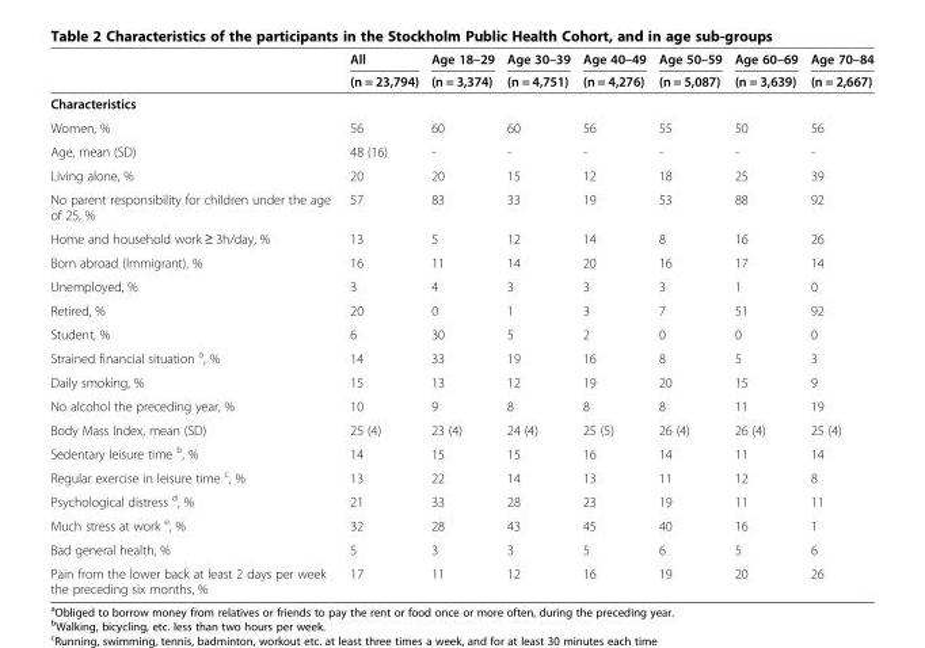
<table><thead><tr><td rowspan="2"></td><td rowspan="2">All (n = 23,794)</td><td rowspan="2">Age 18–29 (n = 3,374)</td><td rowspan="2">Age 30–39 (n = 4,751)</td><td rowspan="2">Age 40–49 (n = 4,276)</td><td rowspan="2">Age 50–59 (n = 5,087)</td><td rowspan="2">Age 60–69 (n = 3,639)</td><td rowspan="2">Age 70–84 (n = 2,667)</td></tr><tr></tr></thead><tbody><tr><td colspan="8">Characteristics</td></tr><tr><td>Women, %</td><td>56</td><td>60</td><td>60</td><td>56</td><td>55</td><td>50</td><td>56</td></tr><tr><td>Age, mean (SD)</td><td>48 (16)</td><td>-</td><td>-</td><td>-</td><td>-</td><td>-</td><td>-</td></tr><tr><td>Living alone, %</td><td>20</td><td>20</td><td>15</td><td>12</td><td>18</td><td>25</td><td>39</td></tr><tr><td>No parent responsibility for children under the age of 25, %</td><td>57</td><td>83</td><td>33</td><td>19</td><td>53</td><td>88</td><td>92</td></tr><tr><td>Home and household work ≥ 3h/day, %</td><td>13</td><td>5</td><td>12</td><td>14</td><td>8</td><td>16</td><td>26</td></tr><tr><td>Born abroad (Immigrant), %</td><td>16</td><td>11</td><td>14</td><td>20</td><td>16</td><td>17</td><td>14</td></tr><tr><td>Unemployed, %</td><td>3</td><td>4</td><td>3</td><td>3</td><td>3</td><td>1</td><td>0</td></tr><tr><td>Retired, %</td><td>20</td><td>0</td><td>1</td><td>3</td><td>7</td><td>51</td><td>92</td></tr><tr><td>Student, %</td><td>6</td><td>30</td><td>5</td><td>2</td><td>0</td><td>0</td><td>0</td></tr><tr><td>Strained financial situation <sup>a</sup>, %</td><td>14</td><td>33</td><td>19</td><td>16</td><td>8</td><td>5</td><td>3</td></tr><tr><td>Daily smoking, %</td><td>15</td><td>13</td><td>12</td><td>19</td><td>20</td><td>15</td><td>9</td></tr><tr><td>No alcohol the preceding year, %</td><td>10</td><td>9</td><td>8</td><td>8</td><td>8</td><td>11</td><td>19</td></tr><tr><td>Body Mass Index, mean (SD)</td><td>25 (4)</td><td>23 (4)</td><td>24 (4)</td><td>25 (5)</td><td>26 (4)</td><td>26 (4)</td><td>25 (4)</td></tr><tr><td>Sedentary leisure time <sup>b</sup>, %</td><td>14</td><td>15</td><td>15</td><td>16</td><td>14</td><td>11</td><td>14</td></tr><tr><td>Regular exercise in leisure time <sup>c</sup>, %</td><td>13</td><td>22</td><td>14</td><td>13</td><td>11</td><td>12</td><td>8</td></tr><tr><td>Psychological distress <sup>d</sup>, %</td><td>21</td><td>33</td><td>28</td><td>23</td><td>19</td><td>11</td><td>11</td></tr><tr><td>Much stress at work <sup>e</sup>, %</td><td>32</td><td>28</td><td>43</td><td>45</td><td>40</td><td>16</td><td>1</td></tr><tr><td>Bad general health, %</td><td>5</td><td>3</td><td>3</td><td>5</td><td>6</td><td>5</td><td>6</td></tr><tr><td>Pain from the lower back at least 2 days per week the preceding six months, %</td><td>17</td><td>11</td><td>12</td><td>16</td><td>19</td><td>20</td><td>26</td></tr></tbody></table>